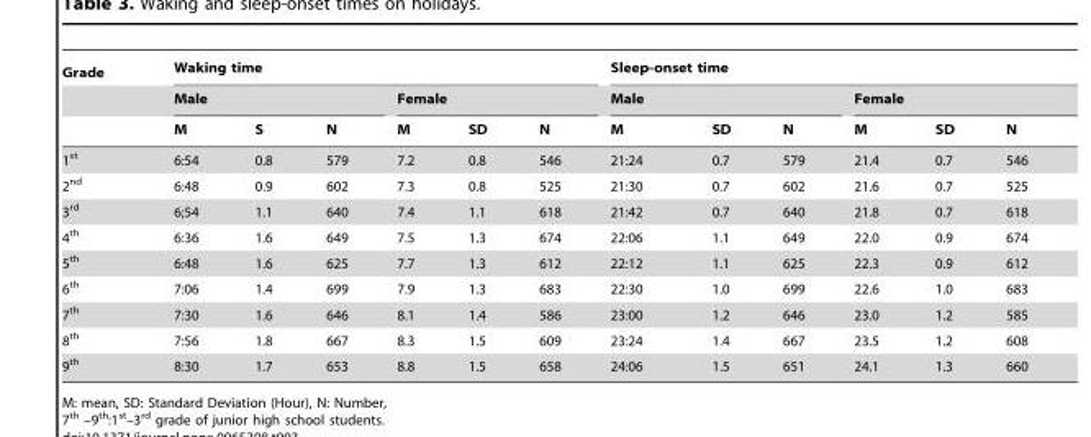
<table><thead><tr><td rowspan="3">Grade</td><td colspan="6">Waking time</td><td colspan="6">Sleep-onset time</td></tr><tr><td colspan="3">Male</td><td colspan="3">Female</td><td colspan="3">Male</td><td colspan="3">Female</td></tr><tr><td>M</td><td>S</td><td>N</td><td>M</td><td>SD</td><td>N</td><td>M</td><td>SD</td><td>N</td><td>M</td><td>SD</td><td>N</td></tr></thead><tbody><tr><td>1<sup>st</sup></td><td>6:54</td><td>0.8</td><td>579</td><td>7.2</td><td>0.8</td><td>546</td><td>21:24</td><td>0.7</td><td>579</td><td>21.4</td><td>0.7</td><td>546</td></tr><tr><td>2<sup>nd</sup></td><td>6:48</td><td>0.9</td><td>602</td><td>7.3</td><td>0.8</td><td>525</td><td>21:30</td><td>0.7</td><td>602</td><td>21.6</td><td>0.7</td><td>525</td></tr><tr><td>3<sup>rd</sup></td><td>6;54</td><td>1.1</td><td>640</td><td>7.4</td><td>1.1</td><td>618</td><td>21:42</td><td>0.7</td><td>640</td><td>21.8</td><td>0.7</td><td>618</td></tr><tr><td>4<sup>th</sup></td><td>6:36</td><td>1.6</td><td>649</td><td>7.5</td><td>1.3</td><td>674</td><td>22:06</td><td>1.1</td><td>649</td><td>22.0</td><td>0.9</td><td>674</td></tr><tr><td>5<sup>th</sup></td><td>6:48</td><td>1.6</td><td>625</td><td>7.7</td><td>1.3</td><td>612</td><td>22:12</td><td>1.1</td><td>625</td><td>22.3</td><td>0.9</td><td>612</td></tr><tr><td>6<sup>th</sup></td><td>7:06</td><td>1.4</td><td>699</td><td>7.9</td><td>1.3</td><td>683</td><td>22:30</td><td>1.0</td><td>699</td><td>22.6</td><td>1.0</td><td>683</td></tr><tr><td>7<sup>th</sup></td><td>7:30</td><td>1.6</td><td>646</td><td>8.1</td><td>1.4</td><td>586</td><td>23:00</td><td>1.2</td><td>646</td><td>23.0</td><td>1.2</td><td>585</td></tr><tr><td>8<sup>th</sup></td><td>7:56</td><td>1.8</td><td>667</td><td>8.3</td><td>1.5</td><td>609</td><td>23:24</td><td>1.4</td><td>667</td><td>23.5</td><td>1.2</td><td>608</td></tr><tr><td>9<sup>th</sup></td><td>8:30</td><td>1.7</td><td>653</td><td>8.8</td><td>1.5</td><td>658</td><td>24:06</td><td>1.5</td><td>651</td><td>24.1</td><td>1.3</td><td>660</td></tr></tbody></table>